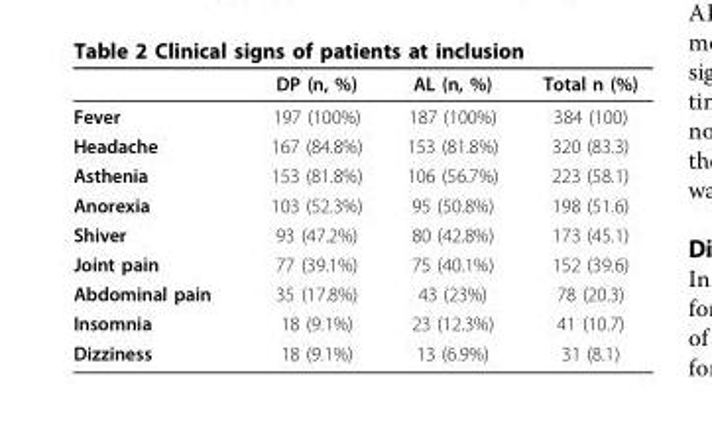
<table><thead><tr><td></td><td>DP (n, %)</td><td>AL (n, %)</td><td>Total n (%)</td></tr></thead><tbody><tr><td>Fever</td><td>197 (100%)</td><td>187 (100%)</td><td>384 (100)</td></tr><tr><td>Headache</td><td>167 (84.8%)</td><td>153 (81.8%)</td><td>320 (83.3)</td></tr><tr><td>Asthenia</td><td>153 (81.8%)</td><td>106 (56.7%)</td><td>223 (58.1)</td></tr><tr><td>Anorexia</td><td>103 (52.3%)</td><td>95 (50.8%)</td><td>198 (51.6)</td></tr><tr><td>Shiver</td><td>93 (47.2%)</td><td>80 (42.8%)</td><td>173 (45.1)</td></tr><tr><td>Joint pain</td><td>77 (39.1%)</td><td>75 (40.1%)</td><td>152 (39.6)</td></tr><tr><td>Abdominal pain</td><td>35 (17.8%)</td><td>43 (23%)</td><td>78 (20.3)</td></tr><tr><td>Insomnia</td><td>18 (9.1%)</td><td>23 (12.3%)</td><td>41 (10.7)</td></tr><tr><td>Dizziness</td><td>18 (9.1%)</td><td>13 (6.9%)</td><td>31 (8.1)</td></tr></tbody></table>